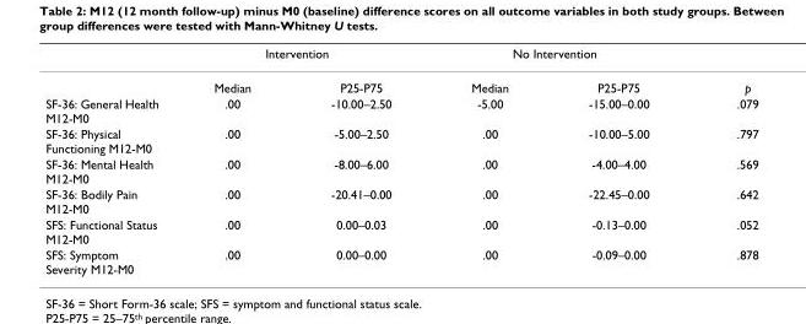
<table><thead><tr><td rowspan="2"></td><td colspan="2">Intervention</td><td colspan="2">No Intervention</td><td rowspan="2">p</td></tr><tr><td>Median</td><td>P25-P75</td><td>Median</td><td>P25-P75</td></tr></thead><tbody><tr><td>SF-36: General Health M12-M0</td><td>.00</td><td>-10.00–2.50</td><td>-5.00</td><td>-15.00–0.00</td><td>.079</td></tr><tr><td>SF-36: Physical Functioning M12-M0</td><td>.00</td><td>-5.00–2.50</td><td>.00</td><td>-10.00–5.00</td><td>.797</td></tr><tr><td>SF-36: Mental Health M12-M0</td><td>.00</td><td>-8.00–6.00</td><td>.00</td><td>-4.00–4.00</td><td>.569</td></tr><tr><td>SF-36: Bodily Pain M12-M0</td><td>.00</td><td>-20.41–0.00</td><td>.00</td><td>-22.45–0.00</td><td>.642</td></tr><tr><td>SFS: Functional Status M12-M0</td><td>.00</td><td>0.00–0.03</td><td>.00</td><td>-0.13–0.00</td><td>.052</td></tr><tr><td>SFS: Symptom Severity M12-M0</td><td>.00</td><td>0.00–0.00</td><td>.00</td><td>-0.09–0.00</td><td>.878</td></tr></tbody></table>